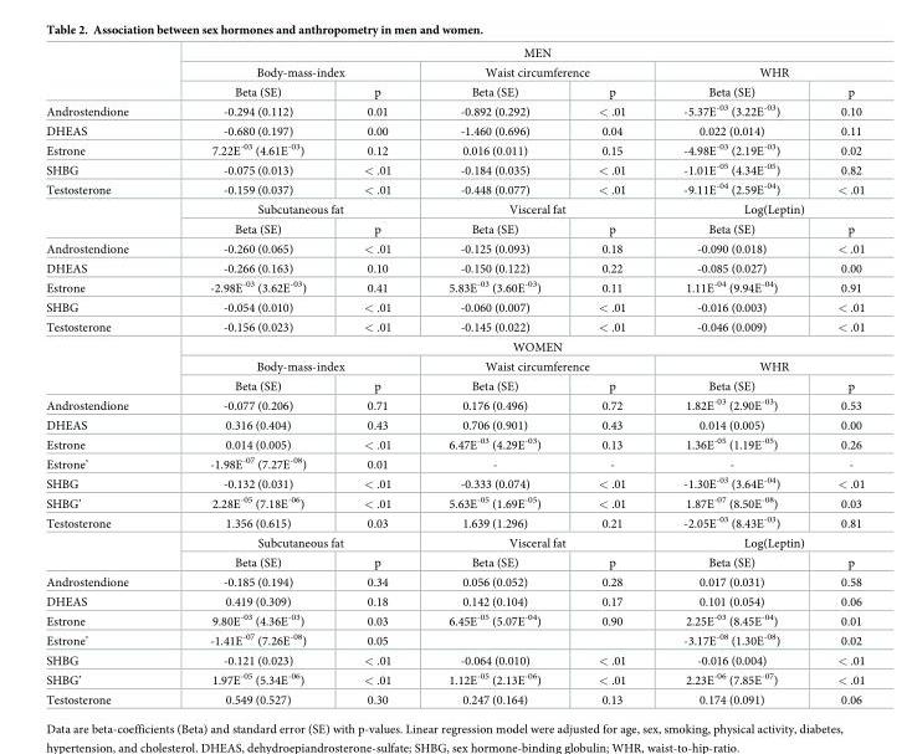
<table><thead><tr><td rowspan="3"></td><td colspan="6">MEN</td></tr><tr><td colspan="2">Body-mass-index</td><td colspan="2">Waist circumference</td><td colspan="2">WHR</td></tr><tr><td>Beta (SE)</td><td>p</td><td>Beta (SE)</td><td>p</td><td>Beta (SE)</td><td>p</td></tr></thead><tbody><tr><td>Androstendione</td><td>-0.294 (0.112)</td><td>0.01</td><td>-0.892 (0.292)</td><td>&lt; .01</td><td>-5.37E<sup>-03</sup> (3.22E<sup>-03</sup>)</td><td>0.10</td></tr><tr><td>DHEAS</td><td>-0.680 (0.197)</td><td>0.00</td><td>-1.460 (0.696)</td><td>0.04</td><td>0.022 (0.014)</td><td>0.11</td></tr><tr><td>Estrone</td><td>7.22E<sup>-03</sup> (4.61E<sup>-03</sup>)</td><td>0.12</td><td>0.016 (0.011)</td><td>0.15</td><td>-4.98E<sup>-03</sup> (2.19E<sup>-03</sup>)</td><td>0.02</td></tr><tr><td>SHBG</td><td>-0.075 (0.013)</td><td>&lt; .01</td><td>-0.184 (0.035)</td><td>&lt; .01</td><td>-1.01E<sup>-05</sup> (4.34E<sup>-05</sup>)</td><td>0.82</td></tr><tr><td rowspan="3">Testosterone</td><td>-0.159 (0.037)</td><td>&lt; .01</td><td>-0.448 (0.077)</td><td>&lt; .01</td><td>-9.11E<sup>-04</sup> (2.59E<sup>-04</sup>)</td><td>&lt; .01</td></tr><tr><td colspan="2">Subcutaneous fat</td><td colspan="2">Visceral fat</td><td colspan="2">Log(Leptin)</td></tr><tr><td>Beta (SE)</td><td>p</td><td>Beta (SE)</td><td>p</td><td>Beta (SE)</td><td>p</td></tr><tr><td>Androstendione</td><td>-0.260 (0.065)</td><td>&lt; .01</td><td>-0.125 (0.093)</td><td>0.18</td><td>-0.090 (0.018)</td><td>&lt; .01</td></tr><tr><td>DHEAS</td><td>-0.266 (0.163)</td><td>0.10</td><td>-0.150 (0.122)</td><td>0.22</td><td>-0.085 (0.027)</td><td>0.00</td></tr><tr><td>Estrone</td><td>-2.98E<sup>-03</sup> (3.62E<sup>-03</sup>)</td><td>0.41</td><td>5.83E<sup>-03</sup> (3.60E<sup>-03</sup>)</td><td>0.11</td><td>1.11E<sup>-04</sup> (9.94E<sup>-04</sup>)</td><td>0.91</td></tr><tr><td>SHBG</td><td>-0.054 (0.010)</td><td>&lt; .01</td><td>-0.060 (0.007)</td><td>&lt; .01</td><td>-0.016 (0.003)</td><td>&lt; .01</td></tr><tr><td rowspan="4">Testosterone</td><td>-0.156 (0.023)</td><td>&lt; .01</td><td>-0.145 (0.022)</td><td>&lt; .01</td><td>-0.046 (0.009)</td><td>&lt; .01</td></tr><tr><td colspan="6">WOMEN</td></tr><tr><td colspan="2">Body-mass-index</td><td colspan="2">Waist circumference</td><td colspan="2">WHR</td></tr><tr><td>Beta (SE)</td><td>p</td><td>Beta (SE)</td><td>p</td><td>Beta (SE)</td><td>p</td></tr><tr><td>Androstendione</td><td>-0.077 (0.206)</td><td>0.71</td><td>0.176 (0.496)</td><td>0.72</td><td>1.82E<sup>-03</sup> (2.90E<sup>-03</sup>)</td><td>0.53</td></tr><tr><td>DHEAS</td><td>0.316 (0.404)</td><td>0.43</td><td>0.706 (0.901)</td><td>0.43</td><td>0.014 (0.005)</td><td>0.00</td></tr><tr><td>Estrone</td><td>0.014 (0.005)</td><td>&lt; .01</td><td>6.47E<sup>-03</sup> (4.29E<sup>-03</sup>)</td><td>0.13</td><td>1.36E<sup>-05</sup> (1.19E<sup>-05</sup>)</td><td>0.26</td></tr><tr><td>Estrone’</td><td>-1.98E<sup>-07</sup> (7.27E<sup>-08</sup>)</td><td>0.01</td><td>-</td><td>-</td><td>-</td><td>-</td></tr><tr><td>SHBG</td><td>-0.132 (0.031)</td><td>&lt; .01</td><td>-0.333 (0.074)</td><td>&lt; .01</td><td>-1.30E<sup>-03</sup> (3.64E<sup>-04</sup>)</td><td>&lt; .01</td></tr><tr><td>SHBG’</td><td>2.28E<sup>-05</sup> (7.18E<sup>-06</sup>)</td><td>&lt; .01</td><td>5.63E<sup>-05</sup> (1.69E<sup>-05</sup>)</td><td>&lt; .01</td><td>1.87E<sup>-07</sup> (8.50E<sup>-08</sup>)</td><td>0.03</td></tr><tr><td rowspan="3">Testosterone</td><td>1.356 (0.615)</td><td>0.03</td><td>1.639 (1.296)</td><td>0.21</td><td>-2.05E<sup>-03</sup> (8.43E<sup>-03</sup>)</td><td>0.81</td></tr><tr><td colspan="2">Subcutaneous fat</td><td colspan="2">Visceral fat</td><td colspan="2">Log(Leptin)</td></tr><tr><td>Beta (SE)</td><td>p</td><td>Beta (SE)</td><td>p</td><td>Beta (SE)</td><td>p</td></tr><tr><td>Androstendione</td><td>-0.185 (0.194)</td><td>0.34</td><td>0.056 (0.052)</td><td>0.28</td><td>0.017 (0.031)</td><td>0.58</td></tr><tr><td>DHEAS</td><td>0.419 (0.309)</td><td>0.18</td><td>0.142 (0.104)</td><td>0.17</td><td>0.101 (0.054)</td><td>0.06</td></tr><tr><td>Estrone</td><td>9.80E<sup>-03</sup> (4.36E<sup>-03</sup>)</td><td>0.03</td><td>6.45E<sup>-05</sup> (5.07E<sup>-04</sup>)</td><td>0.90</td><td>2.25E<sup>-03</sup> (8.45E<sup>-04</sup>)</td><td>0.01</td></tr><tr><td>Estrone’</td><td>-1.41E<sup>-07</sup> (7.26E<sup>-08</sup>)</td><td>0.05</td><td></td><td></td><td>-3.17E<sup>-08</sup> (1.30E<sup>-08</sup>)</td><td>0.02</td></tr><tr><td>SHBG</td><td>-0.121 (0.023)</td><td>&lt; .01</td><td>-0.064 (0.010)</td><td>&lt; .01</td><td>-0.016 (0.004)</td><td>&lt; .01</td></tr><tr><td>SHBG’</td><td>1.97E<sup>-05</sup> (5.34E<sup>-06</sup>)</td><td>&lt; .01</td><td>1.12E<sup>-05</sup> (2.13E<sup>-06</sup>)</td><td>&lt; .01</td><td>2.23E<sup>-06</sup> (7.85E<sup>-07</sup>)</td><td>&lt; .01</td></tr><tr><td>Testosterone</td><td>0.549 (0.527)</td><td>0.30</td><td>0.247 (0.164)</td><td>0.13</td><td>0.174 (0.091)</td><td>0.06</td></tr></tbody></table>